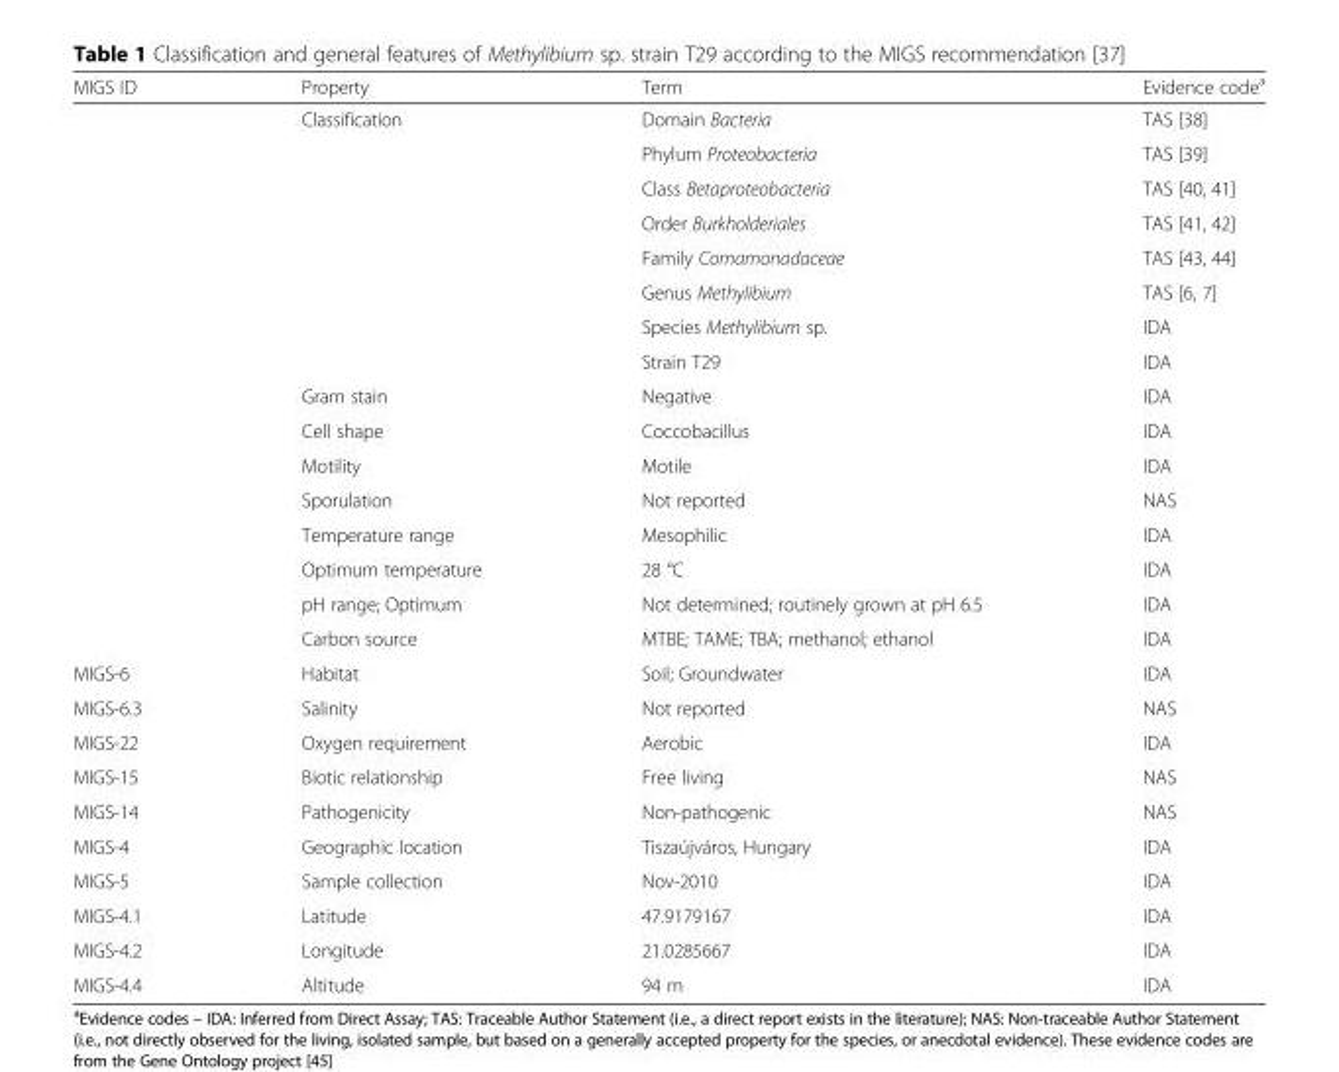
<table><thead><tr><td>MIGS ID</td><td>Property</td><td>Term</td><td>Evidence code<sup>a</sup></td></tr></thead><tbody><tr><td></td><td>Classification</td><td>Domain Bacteria</td><td>TAS [38]</td></tr><tr><td></td><td></td><td>Phylum Proteobacteria</td><td>TAS [39]</td></tr><tr><td></td><td></td><td>Class Betaproteobacteria</td><td>TAS [40, 41]</td></tr><tr><td></td><td></td><td>Order Burkholderiales</td><td>TAS [41, 42]</td></tr><tr><td></td><td></td><td>Family Comamonadaceae</td><td>TAS [43, 44]</td></tr><tr><td></td><td></td><td>Genus Methylibium</td><td>TAS [6, 7]</td></tr><tr><td></td><td></td><td>Species Methylibium sp.</td><td>IDA</td></tr><tr><td></td><td></td><td>Strain T29</td><td>IDA</td></tr><tr><td></td><td>Gram stain</td><td>Negative</td><td>IDA</td></tr><tr><td></td><td>Cell shape</td><td>Coccobacillus</td><td>IDA</td></tr><tr><td></td><td>Motility</td><td>Motile</td><td>IDA</td></tr><tr><td></td><td>Sporulation</td><td>Not reported</td><td>NAS</td></tr><tr><td></td><td>Temperature range</td><td>Mesophilic</td><td>IDA</td></tr><tr><td></td><td>Optimum temperature</td><td>28 °C</td><td>IDA</td></tr><tr><td></td><td>pH range; Optimum</td><td>Not determined; routinely grown at pH 6.5</td><td>IDA</td></tr><tr><td></td><td>Carbon source</td><td>MTBE; TAME; TBA; methanol; ethanol</td><td>IDA</td></tr><tr><td>MIGS-6</td><td>Habitat</td><td>Soil; Groundwater</td><td>IDA</td></tr><tr><td>MIGS-6.3</td><td>Salinity</td><td>Not reported</td><td>NAS</td></tr><tr><td>MIGS-22</td><td>Oxygen requirement</td><td>Aerobic</td><td>IDA</td></tr><tr><td>MIGS-15</td><td>Biotic relationship</td><td>Free living</td><td>NAS</td></tr><tr><td>MIGS-14</td><td>Pathogenicity</td><td>Non-pathogenic</td><td>NAS</td></tr><tr><td>MIGS-4</td><td>Geographic location</td><td>Tiszaújváros, Hungary</td><td>IDA</td></tr><tr><td>MIGS-5</td><td>Sample collection</td><td>Nov-2010</td><td>IDA</td></tr><tr><td>MIGS-4.1</td><td>Latitude</td><td>47.9179167</td><td>IDA</td></tr><tr><td>MIGS-4.2</td><td>Longitude</td><td>21.0285667</td><td>IDA</td></tr><tr><td>MIGS-4.4</td><td>Altitude</td><td>94 m</td><td>IDA</td></tr></tbody></table>